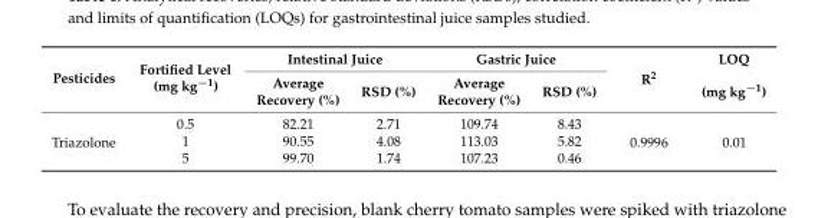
<table><thead><tr><td rowspan="2">Pesticides</td><td rowspan="2">Fortified Level (mg kg<sup>−1</sup>)</td><td colspan="2">Intestinal Juice</td><td colspan="2">Gastric Juice</td><td rowspan="2">R<sup>2</sup></td><td rowspan="2">LOQ (mg kg<sup>−1</sup>)</td></tr><tr><td>Average Recovery (%)</td><td>RSD (%)</td><td>Average Recovery (%)</td><td>RSD (%)</td></tr></thead><tbody><tr><td rowspan="3">Triazolone</td><td>0.5</td><td>82.21</td><td>2.71</td><td>109.74</td><td>8.43</td><td rowspan="3">0.9996</td><td rowspan="3">0.01</td></tr><tr><td>1</td><td>90.55</td><td>4.08</td><td>113.03</td><td>5.82</td></tr><tr><td>5</td><td>99.70</td><td>1.74</td><td>107.23</td><td>0.46</td></tr></tbody></table>